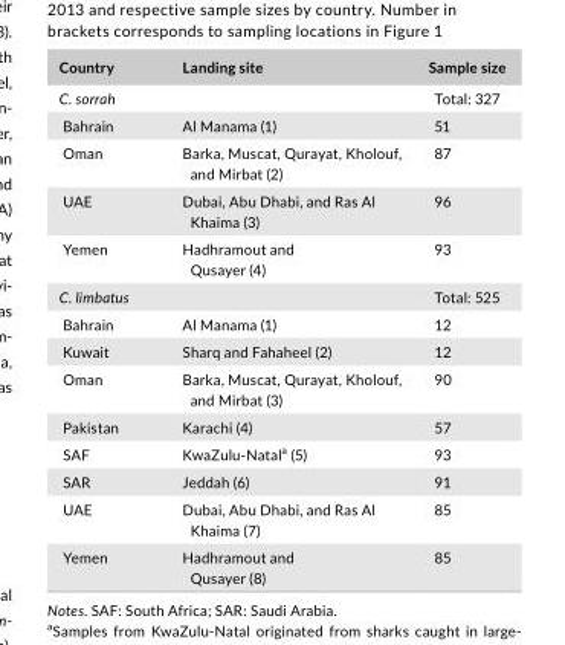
<table><thead><tr><td>Country</td><td>Landing site</td><td>Sample size</td></tr></thead><tbody><tr><td>C. sorrah</td><td></td><td>Total: 327</td></tr><tr><td>Bahrain</td><td>Al Manama (1)</td><td>51</td></tr><tr><td>Oman</td><td>Barka, Muscat, Qurayat, Kholouf, and Mirbat (2)</td><td>87</td></tr><tr><td>UAE</td><td>Dubai, Abu Dhabi, and Ras Al Khaima (3)</td><td>96</td></tr><tr><td>Yemen</td><td>Hadhramout and Qusayer (4)</td><td>93</td></tr><tr><td>C. limbatus</td><td></td><td>Total: 525</td></tr><tr><td>Bahrain</td><td>Al Manama (1)</td><td>12</td></tr><tr><td>Kuwait</td><td>Sharq and Fahaheel (2)</td><td>12</td></tr><tr><td>Oman</td><td>Barka, Muscat, Qurayat, Kholouf, and Mirbat (3)</td><td>90</td></tr><tr><td>Pakistan</td><td>Karachi (4)</td><td>57</td></tr><tr><td>SAF</td><td>KwaZulu- Natal<sup>a</sup> (5)</td><td>93</td></tr><tr><td>SAR</td><td>Jeddah (6)</td><td>91</td></tr><tr><td>UAE</td><td>Dubai, Abu Dhabi, and Ras Al Khaima (7)</td><td>85</td></tr><tr><td>Yemen</td><td>Hadhramout and Qusayer (8)</td><td>85</td></tr></tbody></table>